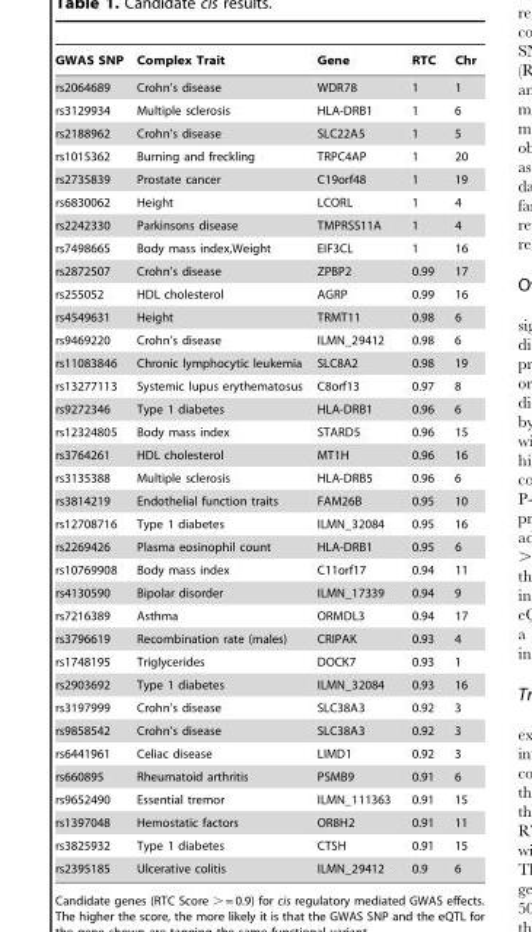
<table><thead><tr><td>GWAS SNP</td><td>Complex Trait</td><td>Gene</td><td>RTC</td><td>Chr</td></tr></thead><tbody><tr><td>rs2064689</td><td>Crohn’s disease</td><td>WDR78</td><td>1</td><td>1</td></tr><tr><td>rs3129934</td><td>Multiple sclerosis</td><td>HLA-DRB1</td><td>1</td><td>6</td></tr><tr><td>rs2188962</td><td>Crohn’s disease</td><td>SLC22A5</td><td>1</td><td>5</td></tr><tr><td>rs1015362</td><td>Burning and freckling</td><td>TRPC4AP</td><td>1</td><td>20</td></tr><tr><td>rs2735839</td><td>Prostate cancer</td><td>C19orf48</td><td>1</td><td>19</td></tr><tr><td>rs6830062</td><td>Height</td><td>LCORL</td><td>1</td><td>4</td></tr><tr><td>rs2242330</td><td>Parkinsons disease</td><td>TMPRSS11A</td><td>1</td><td>4</td></tr><tr><td>rs7498665</td><td>Body mass index,Weight</td><td>EIF3CL</td><td>1</td><td>16</td></tr><tr><td>rs2872507</td><td>Crohn’s disease</td><td>ZPBP2</td><td>0.99</td><td>17</td></tr><tr><td>rs255052</td><td>HDL cholesterol</td><td>AGRP</td><td>0.99</td><td>16</td></tr><tr><td>rs4549631</td><td>Height</td><td>TRMT11</td><td>0.98</td><td>6</td></tr><tr><td>rs9469220</td><td>Crohn’s disease</td><td>ILMN_29412</td><td>0.98</td><td>6</td></tr><tr><td>rs11083846</td><td>Chronic lymphocytic leukemia</td><td>SLC8A2</td><td>0.98</td><td>19</td></tr><tr><td>rs13277113</td><td>Systemic lupus erythematosus</td><td>C8orf13</td><td>0.97</td><td>8</td></tr><tr><td>rs9272346</td><td>Type 1 diabetes</td><td>HLA-DRB1</td><td>0.96</td><td>6</td></tr><tr><td>rs12324805</td><td>Body mass index</td><td>STARD5</td><td>0.96</td><td>15</td></tr><tr><td>rs3764261</td><td>HDL cholesterol</td><td>MT1H</td><td>0.96</td><td>16</td></tr><tr><td>rs3135388</td><td>Multiple sclerosis</td><td>HLA-DRB5</td><td>0.96</td><td>6</td></tr><tr><td>rs3814219</td><td>Endothelial function traits</td><td>FAM26B</td><td>0.95</td><td>10</td></tr><tr><td>rs12708716</td><td>Type 1 diabetes</td><td>ILMN_32084</td><td>0.95</td><td>16</td></tr><tr><td>rs2269426</td><td>Plasma eosinophil count</td><td>HLA-DRB1</td><td>0.95</td><td>6</td></tr><tr><td>rs10769908</td><td>Body mass index</td><td>C11orf17</td><td>0.94</td><td>11</td></tr><tr><td>rs4130590</td><td>Bipolar disorder</td><td>ILMN_17339</td><td>0.94</td><td>9</td></tr><tr><td>rs7216389</td><td>Asthma</td><td>ORMDL3</td><td>0.94</td><td>17</td></tr><tr><td>rs3796619</td><td>Recombination rate (males)</td><td>CRIPAK</td><td>0.93</td><td>4</td></tr><tr><td>rs1748195</td><td>Triglycerides</td><td>DOCK7</td><td>0.93</td><td>1</td></tr><tr><td>rs2903692</td><td>Type 1 diabetes</td><td>ILMN_32084</td><td>0.93</td><td>16</td></tr><tr><td>rs3197999</td><td>Crohn’s disease</td><td>SLC38A3</td><td>0.92</td><td>3</td></tr><tr><td>rs9858542</td><td>Crohn’s disease</td><td>SLC38A3</td><td>0.92</td><td>3</td></tr><tr><td>rs6441961</td><td>Celiac disease</td><td>LIMD1</td><td>0.92</td><td>3</td></tr><tr><td>rs660895</td><td>Rheumatoid arthritis</td><td>PSMB9</td><td>0.91</td><td>6</td></tr><tr><td>rs9652490</td><td>Essential tremor</td><td>ILMN_111363</td><td>0.91</td><td>15</td></tr><tr><td>rs1397048</td><td>Hemostatic factors</td><td>OR8H2</td><td>0.91</td><td>11</td></tr><tr><td>rs3825932</td><td>Type 1 diabetes</td><td>CTSH</td><td>0.91</td><td>15</td></tr><tr><td>rs2395185</td><td>Ulcerative colitis</td><td>ILMN_29412</td><td>0.9</td><td>6</td></tr></tbody></table>